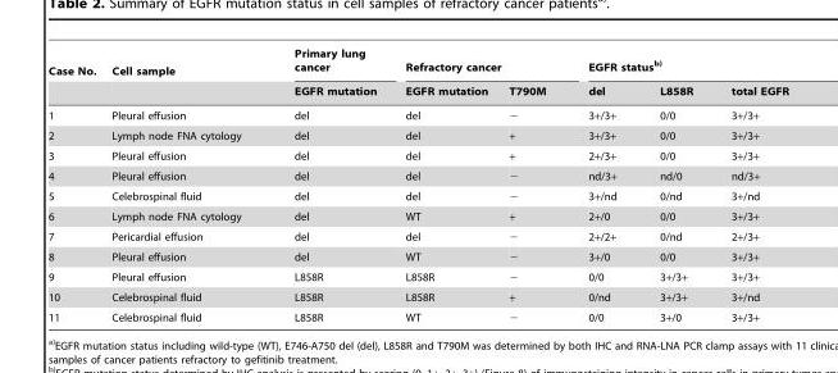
<table><thead><tr><td rowspan="2">Case No.</td><td rowspan="2">Cell sample</td><td rowspan="2">Primary lung cancer EGFR mutation</td><td colspan="2">Refractory cancer</td><td colspan="3">EGFR statusb)</td></tr><tr><td>EGFR mutation</td><td>T790M</td><td>del</td><td>L858R</td><td>total EGFR</td></tr></thead><tbody><tr><td>1</td><td>Pleural effusion</td><td>del</td><td>del</td><td>−</td><td>3+/3+</td><td>0/0</td><td>3+/3+</td></tr><tr><td>2</td><td>Lymph node FNA cytology</td><td>del</td><td>del</td><td>+</td><td>3+/3+</td><td>0/0</td><td>3+/3+</td></tr><tr><td>3</td><td>Pleural effusion</td><td>del</td><td>del</td><td>+</td><td>2+/3+</td><td>0/0</td><td>3+/3+</td></tr><tr><td>4</td><td>Pleural effusion</td><td>del</td><td>del</td><td>−</td><td>nd/3+</td><td>nd/0</td><td>nd/3+</td></tr><tr><td>5</td><td>Celebrospinal fluid</td><td>del</td><td>del</td><td>−</td><td>3+/nd</td><td>0/nd</td><td>3+/nd</td></tr><tr><td>6</td><td>Lymph node FNA cytology</td><td>del</td><td>WT</td><td>+</td><td>2+/0</td><td>0/0</td><td>3+/3+</td></tr><tr><td>7</td><td>Pericardial effusion</td><td>del</td><td>del</td><td>−</td><td>2+/2+</td><td>0/nd</td><td>2+/3+</td></tr><tr><td>8</td><td>Pleural effusion</td><td>del</td><td>WT</td><td>−</td><td>3+/0</td><td>0/0</td><td>3+/3+</td></tr><tr><td>9</td><td>Pleural effusion</td><td>L858R</td><td>L858R</td><td>−</td><td>0/0</td><td>3+/3+</td><td>3+/3+</td></tr><tr><td>10</td><td>Celebrospinal fluid</td><td>L858R</td><td>L858R</td><td>+</td><td>0/nd</td><td>3+/3+</td><td>3+/nd</td></tr><tr><td>11</td><td>Celebrospinal fluid</td><td>L858R</td><td>WT</td><td>−</td><td>0/0</td><td>3+/0</td><td>3+/3+</td></tr></tbody></table>